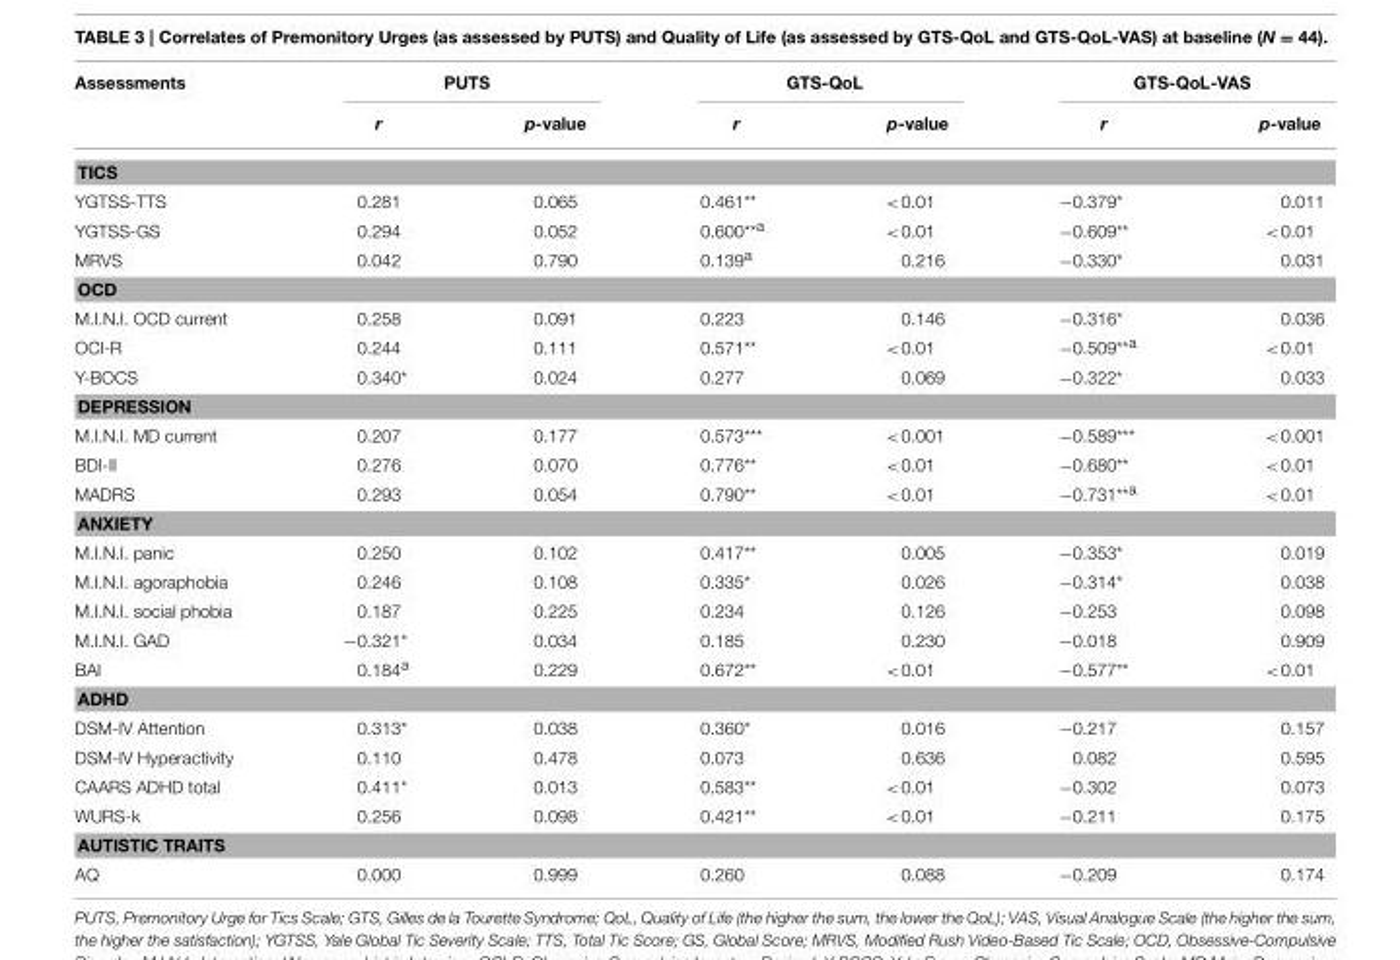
<table><thead><tr><td rowspan="2">Assessments</td><td colspan="2">PUTS</td><td colspan="2">GTS-QoL</td><td colspan="2">GTS-QoL-VAS</td></tr><tr><td>r</td><td>p-value</td><td>r</td><td>p-value</td><td>r</td><td>p-value</td></tr></thead><tbody><tr><td colspan="7">TICS</td></tr><tr><td>YGTSS-TTS</td><td>0.281</td><td>0.065</td><td>0.461**</td><td>&lt;0.01</td><td>−0.379*</td><td>0.011</td></tr><tr><td>YGTSS-GS</td><td>0.294</td><td>0.052</td><td>0.600<sup>**a</sup></td><td>&lt;0.01</td><td>−0.609**</td><td>&lt;0.01</td></tr><tr><td>MRVS</td><td>0.042</td><td>0.790</td><td>0.139<sup>a</sup></td><td>0.216</td><td>−0.330*</td><td>0.031</td></tr><tr><td colspan="7">OCD</td></tr><tr><td>M.I.N.I. OCD current</td><td>0.258</td><td>0.091</td><td>0.223</td><td>0.146</td><td>−0.316*</td><td>0.036</td></tr><tr><td>OCI-R</td><td>0.244</td><td>0.111</td><td>0.571**</td><td>&lt;0.01</td><td>−0.509<sup>**a</sup></td><td>&lt;0.01</td></tr><tr><td>Y-BOCS</td><td>0.340*</td><td>0.024</td><td>0.277</td><td>0.069</td><td>−0.322*</td><td>0.033</td></tr><tr><td colspan="7">DEPRESSION</td></tr><tr><td>M.I.N.I. MD current</td><td>0.207</td><td>0.177</td><td>0.573***</td><td>&lt;0.001</td><td>−0.589***</td><td>&lt;0.001</td></tr><tr><td>BDI-II</td><td>0.276</td><td>0.070</td><td>0.776**</td><td>&lt;0.01</td><td>−0.680**</td><td>&lt;0.01</td></tr><tr><td>MADRS</td><td>0.293</td><td>0.054</td><td>0.790**</td><td>&lt;0.01</td><td>−0.731<sup>**a</sup></td><td>&lt;0.01</td></tr><tr><td colspan="7">ANXIETY</td></tr><tr><td>M.I.N.I. panic</td><td>0.250</td><td>0.102</td><td>0.417**</td><td>0.005</td><td>−0.353*</td><td>0.019</td></tr><tr><td>M.I.N.I. agoraphobia</td><td>0.246</td><td>0.108</td><td>0.335*</td><td>0.026</td><td>−0.314*</td><td>0.038</td></tr><tr><td>M.I.N.I. social phobia</td><td>0.187</td><td>0.225</td><td>0.234</td><td>0.126</td><td>−0.253</td><td>0.098</td></tr><tr><td>M.I.N.I. GAD</td><td>−0.321*</td><td>0.034</td><td>0.185</td><td>0.230</td><td>−0.018</td><td>0.909</td></tr><tr><td>BAI</td><td>0.184<sup>a</sup></td><td>0.229</td><td>0.672**</td><td>&lt;0.01</td><td>−0.577**</td><td>&lt;0.01</td></tr><tr><td colspan="7">ADHD</td></tr><tr><td>DSM-IV Attention</td><td>0.313*</td><td>0.038</td><td>0.360*</td><td>0.016</td><td>−0.217</td><td>0.157</td></tr><tr><td>DSM-IV Hyperactivity</td><td>0.110</td><td>0.478</td><td>0.073</td><td>0.636</td><td>0.082</td><td>0.595</td></tr><tr><td>CAARS ADHD total</td><td>0.411*</td><td>0.013</td><td>0.583**</td><td>&lt;0.01</td><td>−0.302</td><td>0.073</td></tr><tr><td>WURS-k</td><td>0.256</td><td>0.098</td><td>0.421**</td><td>&lt;0.01</td><td>−0.211</td><td>0.175</td></tr><tr><td colspan="7">AUTISTIC TRAITS</td></tr><tr><td>AQ</td><td>0.000</td><td>0.999</td><td>0.260</td><td>0.088</td><td>−0.209</td><td>0.174</td></tr></tbody></table>